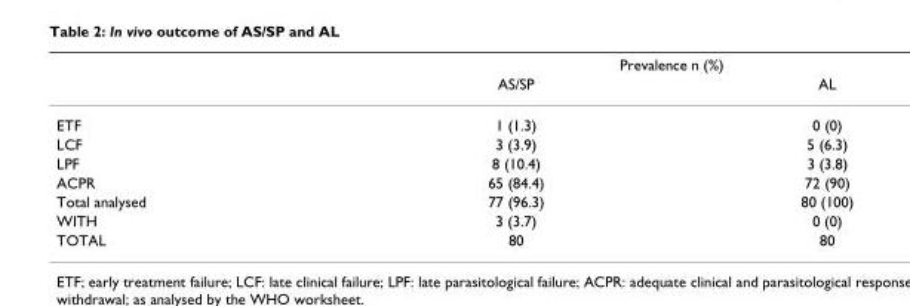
<table><thead><tr><td rowspan="2"></td><td colspan="2">Prevalence n (%)</td></tr><tr><td>AS/SP</td><td>AL</td></tr></thead><tbody><tr><td>ETF</td><td>1 (1.3)</td><td>0 (0)</td></tr><tr><td>LCF</td><td>3 (3.9)</td><td>5 (6.3)</td></tr><tr><td>LPF</td><td>8 (10.4)</td><td>3 (3.8)</td></tr><tr><td>ACPR</td><td>65 (84.4)</td><td>72 (90)</td></tr><tr><td>Total analysed</td><td>77 (96.3)</td><td>80 (100)</td></tr><tr><td>WITH</td><td>3 (3.7)</td><td>0 (0)</td></tr><tr><td>TOTAL</td><td>80</td><td>80</td></tr></tbody></table>